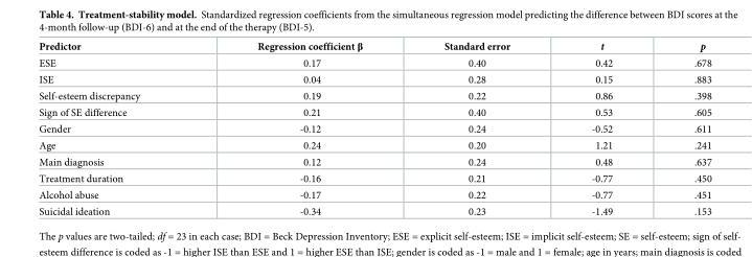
<table><thead><tr><td>Predictor</td><td>Regression coefficient β</td><td>Standard error</td><td>t</td><td>p</td></tr></thead><tbody><tr><td>ESE</td><td>0.17</td><td>0.40</td><td>0.42</td><td>.678</td></tr><tr><td>ISE</td><td>0.04</td><td>0.28</td><td>0.15</td><td>.883</td></tr><tr><td>Self-esteem discrepancy</td><td>0.19</td><td>0.22</td><td>0.86</td><td>.398</td></tr><tr><td>Sign of SE difference</td><td>0.21</td><td>0.40</td><td>0.53</td><td>.605</td></tr><tr><td>Gender</td><td>-0.12</td><td>0.24</td><td>-0.52</td><td>.611</td></tr><tr><td>Age</td><td>0.24</td><td>0.20</td><td>1.21</td><td>.241</td></tr><tr><td>Main diagnosis</td><td>0.12</td><td>0.24</td><td>0.48</td><td>.637</td></tr><tr><td>Treatment duration</td><td>-0.16</td><td>0.21</td><td>-0.77</td><td>.450</td></tr><tr><td>Alcohol abuse</td><td>-0.17</td><td>0.22</td><td>-0.77</td><td>.451</td></tr><tr><td>Suicidal ideation</td><td>-0.34</td><td>0.23</td><td>-1.49</td><td>.153</td></tr></tbody></table>